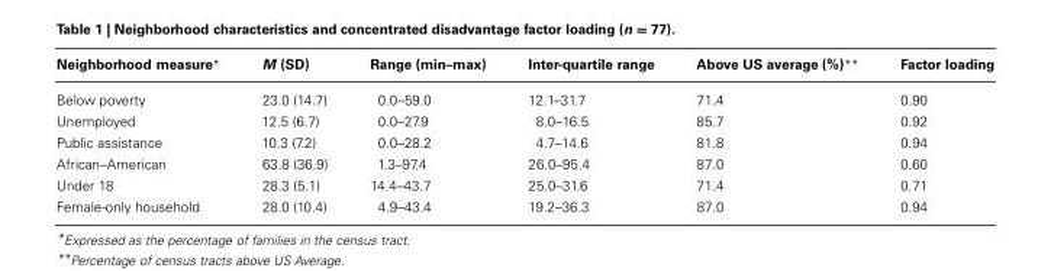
<table><thead><tr><td>Neighborhood measure*</td><td>M (SD)</td><td>Range (min–max)</td><td>Inter-quartile range</td><td>Above US average (%)**</td><td>Factor loading</td></tr></thead><tbody><tr><td>Below poverty</td><td>23.0 (14.7)</td><td>0.0–59.0</td><td>12.1–31.7</td><td>71.4</td><td>0.90</td></tr><tr><td>Unemployed</td><td>12.5 (6.7)</td><td>0.0–27.9</td><td>8.0–16.5</td><td>85.7</td><td>0.92</td></tr><tr><td>Public assistance</td><td>10.3 (7.2)</td><td>0.0–28.2</td><td>4.7–14.6</td><td>81.8</td><td>0.94</td></tr><tr><td>African–American</td><td>63.8 (36.9)</td><td>1.3–97.4</td><td>26.0–95.4</td><td>87.0</td><td>0.60</td></tr><tr><td>Under 18</td><td>28.3 (5.1)</td><td>14.4–43.7</td><td>25.0–31.6</td><td>71.4</td><td>0.71</td></tr><tr><td>Female-only household</td><td>28.0 (10.4)</td><td>4.9–43.4</td><td>19.2–36.3</td><td>87.0</td><td>0.94</td></tr></tbody></table>